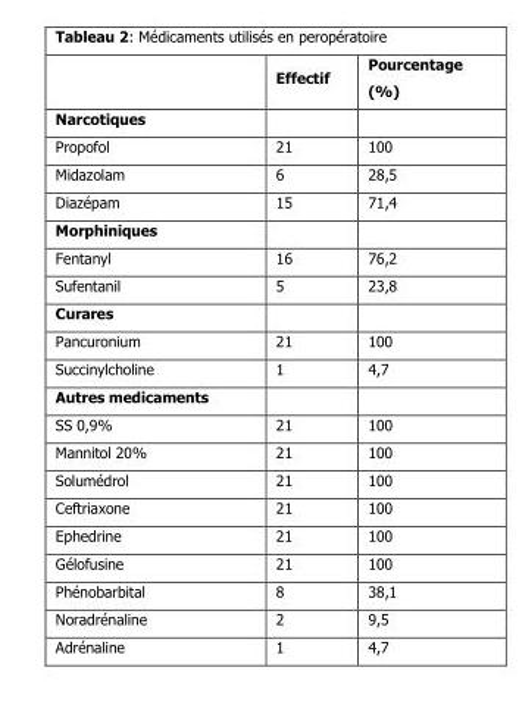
<table><thead><tr><td></td><td>Effectif</td><td>Pourcentage (%)</td></tr></thead><tbody><tr><td colspan="3">Narcotiques</td></tr><tr><td>Propofol</td><td>21</td><td>100</td></tr><tr><td>Midazolam</td><td>6</td><td>28,5</td></tr><tr><td>Diazépam</td><td>15</td><td>71,4</td></tr><tr><td colspan="3">Morphiniques</td></tr><tr><td>Fentanyl</td><td>16</td><td>76,2</td></tr><tr><td>Sufentanil</td><td>5</td><td>23,8</td></tr><tr><td colspan="3">Curares</td></tr><tr><td>Pancuronium</td><td>21</td><td>100</td></tr><tr><td>Succinylcholine</td><td>1</td><td>4,7</td></tr><tr><td colspan="3">Autres medicaments</td></tr><tr><td>SS 0,9%</td><td>21</td><td>100</td></tr><tr><td>Mannitol 20%</td><td>21</td><td>100</td></tr><tr><td>Solumédrol</td><td>21</td><td>100</td></tr><tr><td>Ceftriaxone</td><td>21</td><td>100</td></tr><tr><td>Ephedrine</td><td>21</td><td>100</td></tr><tr><td>Gélofusine</td><td>21</td><td>100</td></tr><tr><td>Phénobarbital</td><td>8</td><td>38,1</td></tr><tr><td>Noradrénaline</td><td>2</td><td>9,5</td></tr><tr><td>Adrénaline</td><td>1</td><td>4,7</td></tr></tbody></table>